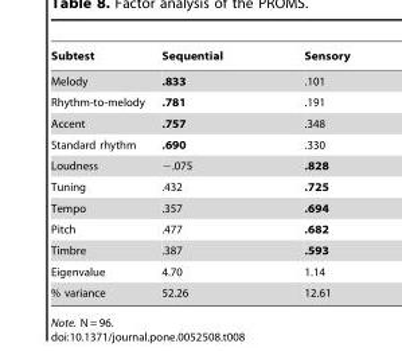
<table><thead><tr><td>Subtest</td><td>Sequential</td><td>Sensory</td></tr></thead><tbody><tr><td>Melody</td><td>.833</td><td>.101</td></tr><tr><td>Rhythm-to-melody</td><td>.781</td><td>.191</td></tr><tr><td>Accent</td><td>.757</td><td>.348</td></tr><tr><td>Standard rhythm</td><td>.690</td><td>.330</td></tr><tr><td>Loudness</td><td>−.075</td><td>.828</td></tr><tr><td>Tuning</td><td>.432</td><td>.725</td></tr><tr><td>Tempo</td><td>.357</td><td>.694</td></tr><tr><td>Pitch</td><td>.477</td><td>.682</td></tr><tr><td>Timbre</td><td>.387</td><td>.593</td></tr><tr><td>Eigenvalue</td><td>4.70</td><td>1.14</td></tr><tr><td>% variance</td><td>52.26</td><td>12.61</td></tr></tbody></table>